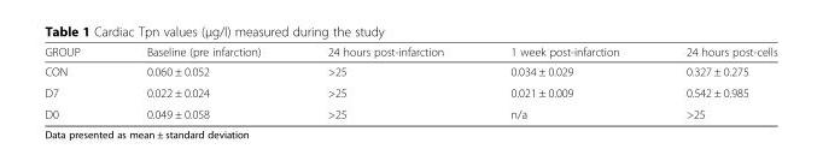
<table><thead><tr><td>GROUP</td><td>Baseline (pre infarction)</td><td>24 hours post-infarction</td><td>1 week post-infarction</td><td>24 hours post-cells</td></tr></thead><tbody><tr><td>CON</td><td>0.060 ± 0.052</td><td>&gt;25</td><td>0.034 ± 0.029</td><td>0.327 ± 0.275</td></tr><tr><td>D7</td><td>0.022 ± 0.024</td><td>&gt;25</td><td>0.021 ± 0.009</td><td>0.542 ± 0.985</td></tr><tr><td>D0</td><td>0.049 ± 0.058</td><td>&gt;25</td><td>n/a</td><td>&gt;25</td></tr></tbody></table>